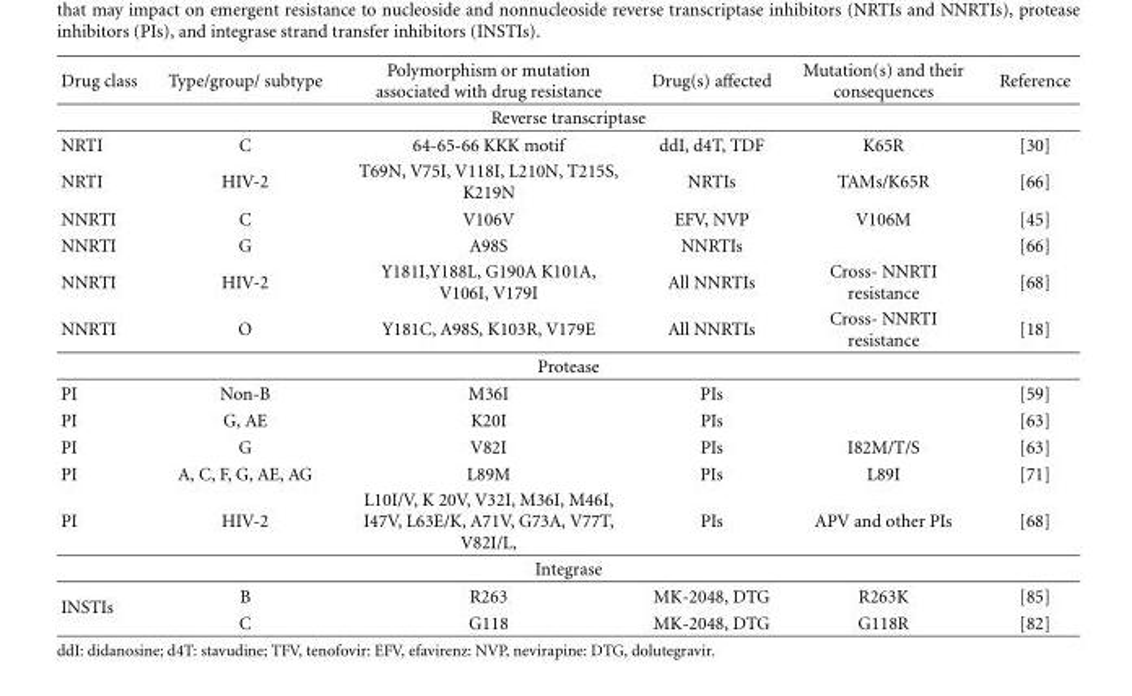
<table><thead><tr><td>Drug class</td><td>Type/group/ subtype</td><td>Polymorphism or mutation associated with drug resistance</td><td>Drug(s) affected</td><td>Mutation(s) and their consequences</td><td>Reference</td></tr></thead><tbody><tr><td colspan="6">Reverse transcriptase</td></tr><tr><td>NRTI</td><td>C</td><td>64-65-66 KKK motif</td><td>ddI, d4T, TDF</td><td>K65R</td><td>[30]</td></tr><tr><td>NRTI</td><td>HIV-2</td><td>T69N, V75I, V118I, L210N, T215S, K219N</td><td>NRTIs</td><td>TAMs/K65R</td><td>[66]</td></tr><tr><td>NNRTI</td><td>C</td><td>V106V</td><td>EFV, NVP</td><td>V106M</td><td>[45]</td></tr><tr><td>NNRTI</td><td>G</td><td>A98S</td><td>NNRTIs</td><td></td><td>[66]</td></tr><tr><td>NNRTI</td><td>HIV-2</td><td>Y181I,Y188L, G190A K101A, V106I, V179I</td><td>All NNRTIs</td><td>Cross- NNRTI resistance</td><td>[68]</td></tr><tr><td>NNRTI</td><td>O</td><td>Y181C, A98S, K103R, V179E</td><td>All NNRTIs</td><td>Cross- NNRTI resistance</td><td>[18]</td></tr><tr><td colspan="6">Protease</td></tr><tr><td>PI</td><td>Non-B</td><td>M36I</td><td>PIs</td><td></td><td>[59]</td></tr><tr><td>PI</td><td>G, AE</td><td>K20I</td><td>PIs</td><td></td><td>[63]</td></tr><tr><td>PI</td><td>G</td><td>V82I</td><td>PIs</td><td>I82M/T/S</td><td>[63]</td></tr><tr><td>PI</td><td>A, C, F, G, AE, AG</td><td>L89M</td><td>PIs</td><td>L89I</td><td>[71]</td></tr><tr><td>PI</td><td>HIV-2</td><td>L10I/V, K 20V, V32I, M36I, M46I, I47V, L63E/K, A71V, G73A, V77T, V82I/L,</td><td>PIs</td><td>APV and other PIs</td><td>[68]</td></tr><tr><td colspan="6">Integrase</td></tr><tr><td rowspan="2">INSTIs</td><td>B</td><td>R263</td><td>MK-2048, DTG</td><td>R263K</td><td>[85]</td></tr><tr><td>C</td><td>G118</td><td>MK-2048, DTG</td><td>G118R</td><td>[82]</td></tr></tbody></table>